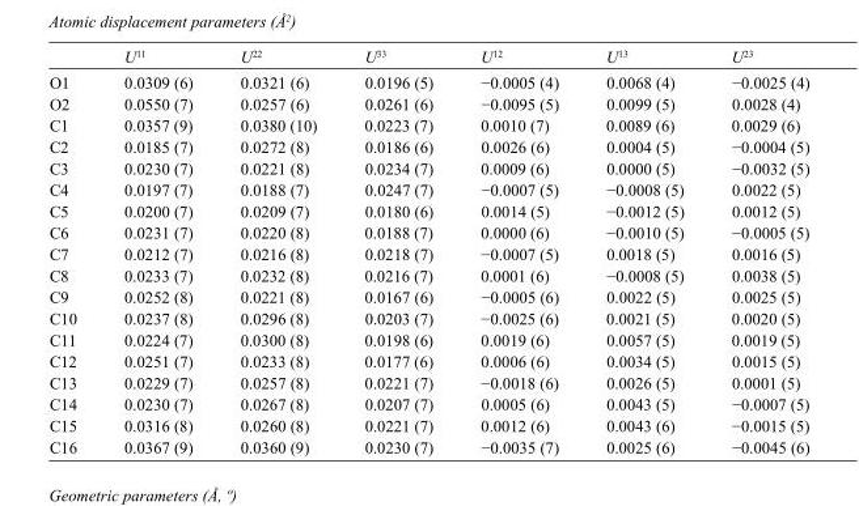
<table><thead><tr><td></td><td>U<sup>11</sup></td><td>U<sup>22</sup></td><td>U<sup>33</sup></td><td>U<sup>12</sup></td><td>U<sup>13</sup></td><td>U<sup>23</sup></td></tr></thead><tbody><tr><td>O1</td><td>0.0309 (6)</td><td>0.0321 (6)</td><td>0.0196 (5)</td><td>−0.0005 (4)</td><td>0.0068 (4)</td><td>−0.0025 (4)</td></tr><tr><td>O2</td><td>0.0550 (7)</td><td>0.0257 (6)</td><td>0.0261 (6)</td><td>−0.0095 (5)</td><td>0.0099 (5)</td><td>0.0028 (4)</td></tr><tr><td>C1</td><td>0.0357 (9)</td><td>0.0380 (10)</td><td>0.0223 (7)</td><td>0.0010 (7)</td><td>0.0089 (6)</td><td>0.0029 (6)</td></tr><tr><td>C2</td><td>0.0185 (7)</td><td>0.0272 (8)</td><td>0.0186 (6)</td><td>0.0026 (6)</td><td>0.0004 (5)</td><td>−0.0004 (5)</td></tr><tr><td>C3</td><td>0.0230 (7)</td><td>0.0221 (8)</td><td>0.0234 (7)</td><td>0.0009 (6)</td><td>0.0000 (5)</td><td>−0.0032 (5)</td></tr><tr><td>C4</td><td>0.0197 (7)</td><td>0.0188 (7)</td><td>0.0247 (7)</td><td>−0.0007 (5)</td><td>−0.0008 (5)</td><td>0.0022 (5)</td></tr><tr><td>C5</td><td>0.0200 (7)</td><td>0.0209 (7)</td><td>0.0180 (6)</td><td>0.0014 (5)</td><td>−0.0012 (5)</td><td>0.0012 (5)</td></tr><tr><td>C6</td><td>0.0231 (7)</td><td>0.0220 (8)</td><td>0.0188 (7)</td><td>0.0000 (6)</td><td>−0.0010 (5)</td><td>−0.0005 (5)</td></tr><tr><td>C7</td><td>0.0212 (7)</td><td>0.0216 (8)</td><td>0.0218 (7)</td><td>−0.0007 (5)</td><td>0.0018 (5)</td><td>0.0016 (5)</td></tr><tr><td>C8</td><td>0.0233 (7)</td><td>0.0232 (8)</td><td>0.0216 (7)</td><td>0.0001 (6)</td><td>−0.0008 (5)</td><td>0.0038 (5)</td></tr><tr><td>C9</td><td>0.0252 (8)</td><td>0.0221 (8)</td><td>0.0167 (6)</td><td>−0.0005 (6)</td><td>0.0022 (5)</td><td>0.0025 (5)</td></tr><tr><td>C10</td><td>0.0237 (8)</td><td>0.0296 (8)</td><td>0.0203 (7)</td><td>−0.0025 (6)</td><td>0.0021 (5)</td><td>0.0020 (5)</td></tr><tr><td>C11</td><td>0.0224 (7)</td><td>0.0300 (8)</td><td>0.0198 (6)</td><td>0.0019 (6)</td><td>0.0057 (5)</td><td>0.0019 (5)</td></tr><tr><td>C12</td><td>0.0251 (7)</td><td>0.0233 (8)</td><td>0.0177 (6)</td><td>0.0006 (6)</td><td>0.0034 (5)</td><td>0.0015 (5)</td></tr><tr><td>C13</td><td>0.0229 (7)</td><td>0.0257 (8)</td><td>0.0221 (7)</td><td>−0.0018 (6)</td><td>0.0026 (5)</td><td>0.0001 (5)</td></tr><tr><td>C14</td><td>0.0230 (7)</td><td>0.0267 (8)</td><td>0.0207 (7)</td><td>0.0005 (6)</td><td>0.0043 (5)</td><td>−0.0007 (5)</td></tr><tr><td>C15</td><td>0.0316 (8)</td><td>0.0260 (8)</td><td>0.0221 (7)</td><td>0.0012 (6)</td><td>0.0043 (6)</td><td>−0.0015 (5)</td></tr><tr><td>C16</td><td>0.0367 (9)</td><td>0.0360 (9)</td><td>0.0230 (7)</td><td>−0.0035 (7)</td><td>0.0025 (6)</td><td>−0.0045 (6)</td></tr></tbody></table>